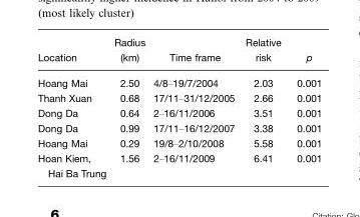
<table><thead><tr><td>Location</td><td>Radius (km)</td><td>Time frame</td><td>Relative risk</td><td>p</td></tr></thead><tbody><tr><td>Hoang Mai</td><td>2.50</td><td>4/8–19/7/2004</td><td>2.03</td><td>0.001</td></tr><tr><td>Thanh Xuan</td><td>0.68</td><td>17/11–31/12/2005</td><td>2.66</td><td>0.001</td></tr><tr><td>Dong Da</td><td>0.64</td><td>2–16/11/2006</td><td>3.51</td><td>0.001</td></tr><tr><td>Dong Da</td><td>0.99</td><td>17/11–16/12/2007</td><td>3.38</td><td>0.001</td></tr><tr><td>Hoang Mai</td><td>0.29</td><td>19/8–2/10/2008</td><td>5.58</td><td>0.001</td></tr><tr><td>Hoan Kiem, Hai Ba Trung</td><td>1.56</td><td>2–16/11/2009</td><td>6.41</td><td>0.001</td></tr></tbody></table>